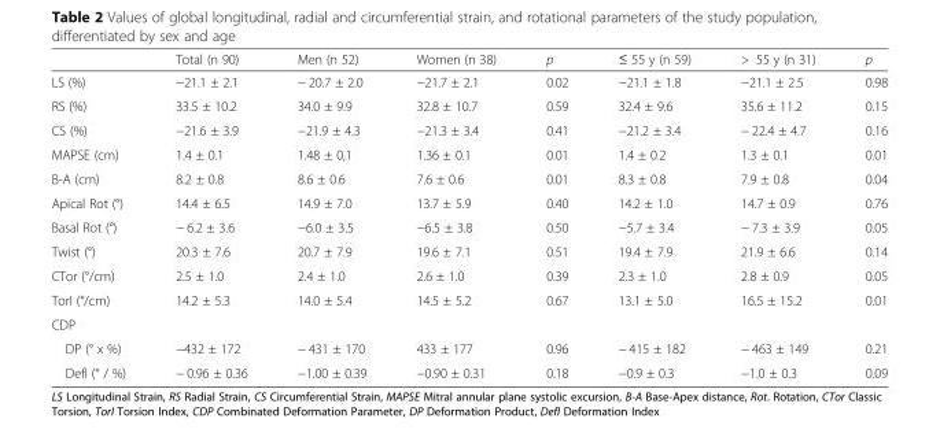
<table><thead><tr><td></td><td>Total (n 90)</td><td>Men (n 52)</td><td>Women (n 38)</td><td>p</td><td>≤ 55 y (n 59)</td><td>&gt; 55 y (n 31)</td><td>p</td></tr></thead><tbody><tr><td>LS (%)</td><td>−21.1 ± 2.1</td><td>− 20.7 ± 2.0</td><td>−21.7 ± 2.1</td><td>0.02</td><td>−21.1 ± 1.8</td><td>−21.1 ± 2.5</td><td>0.98</td></tr><tr><td>RS (%)</td><td>33.5 ± 10.2</td><td>34.0 ± 9.9</td><td>32.8 ± 10.7</td><td>0.59</td><td>32.4 ± 9.6</td><td>35.6 ± 11.2</td><td>0.15</td></tr><tr><td>CS (%)</td><td>−21.6 ± 3.9</td><td>−21.9 ± 4.3</td><td>−21.3 ± 3.4</td><td>0.41</td><td>−21.2 ± 3.4</td><td>− 22.4 ± 4.7</td><td>0.16</td></tr><tr><td>MAPSE (cm)</td><td>1.4 ± 0.1</td><td>1.48 ± 0,1</td><td>1.36 ± 0.1</td><td>0.01</td><td>1.4 ± 0.2</td><td>1.3 ± 0.1</td><td>0.01</td></tr><tr><td>B-A (cm)</td><td>8.2 ± 0.8</td><td>8.6 ± 0.6</td><td>7.6 ± 0.6</td><td>0.01</td><td>8.3 ± 0.8</td><td>7.9 ± 0.8</td><td>0.04</td></tr><tr><td>Apical Rot (°)</td><td>14.4 ± 6.5</td><td>14.9 ± 7.0</td><td>13.7 ± 5.9</td><td>0.40</td><td>14.2 ± 1.0</td><td>14.7 ± 0.9</td><td>0.76</td></tr><tr><td>Basal Rot (°)</td><td>− 6.2 ± 3.6</td><td>−6.0 ± 3.5</td><td>−6.5 ± 3.8</td><td>0.50</td><td>−5.7 ± 3.4</td><td>− 7.3 ± 3.9</td><td>0.05</td></tr><tr><td>Twist (°)</td><td>20.3 ± 7.6</td><td>20.7 ± 7.9</td><td>19.6 ± 7.1</td><td>0.51</td><td>19.4 ± 7.9</td><td>21.9 ± 6.6</td><td>0.14</td></tr><tr><td>CTor (°/cm)</td><td>2.5 ± 1.0</td><td>2.4 ± 1.0</td><td>2.6 ± 1.0</td><td>0.39</td><td>2.3 ± 1.0</td><td>2.8 ± 0.9</td><td>0.05</td></tr><tr><td>TorI (°/cm)</td><td>14.2 ± 5.3</td><td>14.0 ± 5.4</td><td>14.5 ± 5.2</td><td>0.67</td><td>13.1 ± 5.0</td><td>16.5 ± 15.2</td><td>0.01</td></tr><tr><td colspan="8">CDP</td></tr><tr><td>DP (° x %)</td><td>−432 ± 172</td><td>− 431 ± 170</td><td>433 ± 177</td><td>0.96</td><td>− 415 ± 182</td><td>− 463 ± 149</td><td>0.21</td></tr><tr><td>DefI (° / %)</td><td>− 0.96 ± 0.36</td><td>−1.00 ± 0.39</td><td>−0.90 ± 0.31</td><td>0.18</td><td>−0.9 ± 0.3</td><td>−1.0 ± 0.3</td><td>0.09</td></tr></tbody></table>